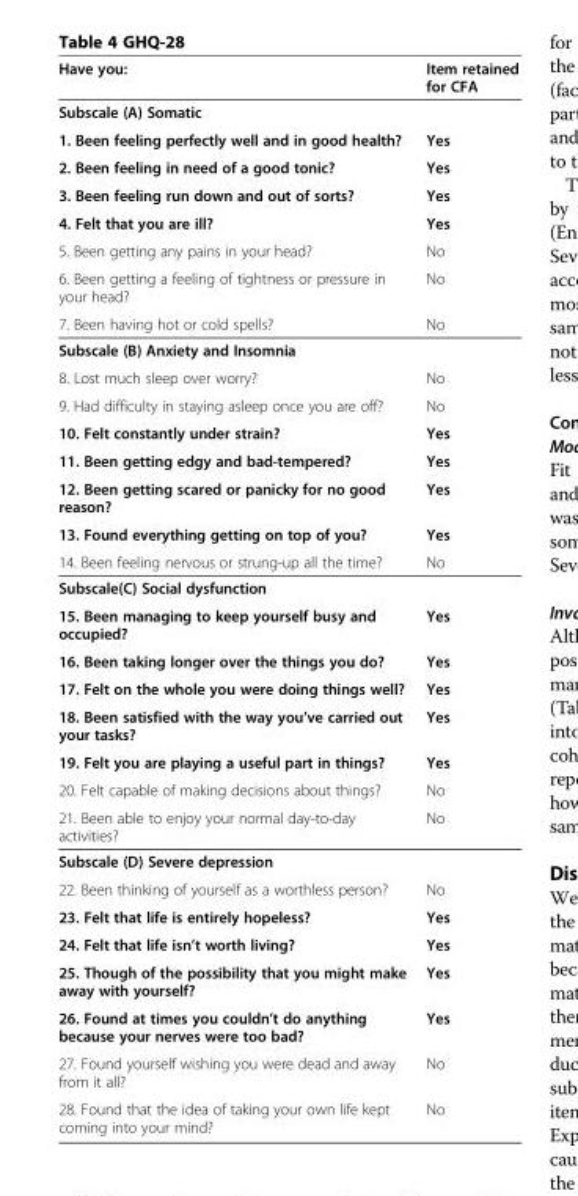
<table><thead><tr><td>Have you:</td><td>Item retained for CFA</td></tr></thead><tbody><tr><td colspan="2">Subscale (A) Somatic</td></tr><tr><td>1. Been feeling perfectly well and in good health?</td><td>Yes</td></tr><tr><td>2. Been feeling in need of a good tonic?</td><td>Yes</td></tr><tr><td>3. Been feeling run down and out of sorts?</td><td>Yes</td></tr><tr><td>4. Felt that you are ill?</td><td>Yes</td></tr><tr><td>5. Been getting any pains in your head?</td><td>No</td></tr><tr><td>6. Been getting a feeling of tightness or pressure in your head?</td><td>No</td></tr><tr><td>7. Been having hot or cold spells?</td><td>No</td></tr><tr><td colspan="2">Subscale (B) Anxiety and Insomnia</td></tr><tr><td>8. Lost much sleep over worry?</td><td>No</td></tr><tr><td>9. Had difficulty in staying asleep once you are off?</td><td>No</td></tr><tr><td>10. Felt constantly under strain?</td><td>Yes</td></tr><tr><td>11. Been getting edgy and bad-tempered?</td><td>Yes</td></tr><tr><td>12. Been getting scared or panicky for no good reason?</td><td>Yes</td></tr><tr><td>13. Found everything getting on top of you?</td><td>Yes</td></tr><tr><td>14. Been feeling nervous or strung-up all the time?</td><td>No</td></tr><tr><td colspan="2">Subscale(C) Social dysfunction</td></tr><tr><td>15. Been managing to keep yourself busy and occupied?</td><td>Yes</td></tr><tr><td>16. Been taking longer over the things you do?</td><td>Yes</td></tr><tr><td>17. Felt on the whole you were doing things well?</td><td>Yes</td></tr><tr><td>18. Been satisfied with the way you’ve carried out your tasks?</td><td>Yes</td></tr><tr><td>19. Felt you are playing a useful part in things?</td><td>Yes</td></tr><tr><td>20. Felt capable of making decisions about things?</td><td>No</td></tr><tr><td>21. Been able to enjoy your normal day-to-day activities?</td><td>No</td></tr><tr><td colspan="2">Subscale (D) Severe depression</td></tr><tr><td>22. Been thinking of yourself as a worthless person?</td><td>No</td></tr><tr><td>23. Felt that life is entirely hopeless?</td><td>Yes</td></tr><tr><td>24. Felt that life isn’t worth living?</td><td>Yes</td></tr><tr><td>25. Though of the possibility that you might make away with yourself?</td><td>Yes</td></tr><tr><td>26. Found at times you couldn’t do anything because your nerves were too bad?</td><td>Yes</td></tr><tr><td>27. Found yourself wishing you were dead and away from it all?</td><td>No</td></tr><tr><td>28. Found that the idea of taking your own life kept coming into your mind?</td><td>No</td></tr></tbody></table>